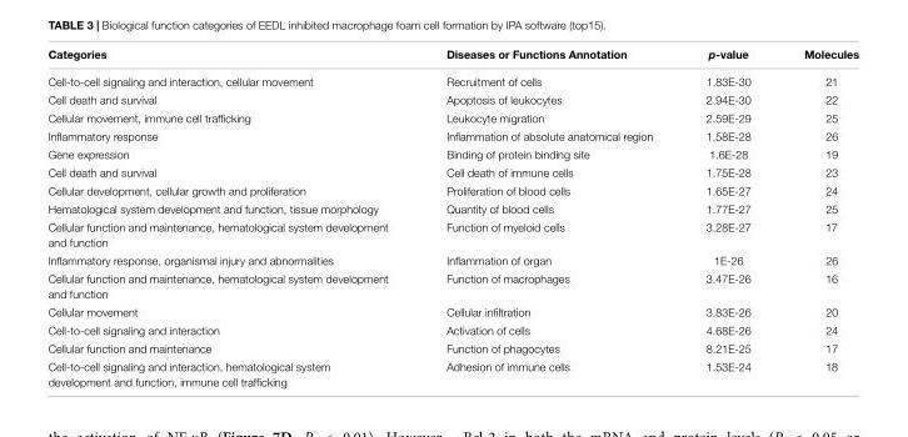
<table><thead><tr><td>Categories</td><td>Diseases or Functions Annotation</td><td>p-value</td><td>Molecules</td></tr></thead><tbody><tr><td>Cell-to-cell signaling and interaction, cellular movement</td><td>Recruitment of cells</td><td>1.83E-30</td><td>21</td></tr><tr><td>Cell death and survival</td><td>Apoptosis of leukocytes</td><td>2.94E-30</td><td>22</td></tr><tr><td>Cellular movement, immune cell trafficking</td><td>Leukocyte migration</td><td>2.59E-29</td><td>25</td></tr><tr><td>Inflammatory response</td><td>Inflammation of absolute anatomical region</td><td>1.58E-28</td><td>26</td></tr><tr><td>Gene expression</td><td>Binding of protein binding site</td><td>1.6E-28</td><td>19</td></tr><tr><td>Cell death and survival</td><td>Cell death of immune cells</td><td>1.75E-28</td><td>23</td></tr><tr><td>Cellular development, cellular growth and proliferation</td><td>Proliferation of blood cells</td><td>1.65E-27</td><td>24</td></tr><tr><td>Hematological system development and function, tissue morphology</td><td>Quantity of blood cells</td><td>1.77E-27</td><td>25</td></tr><tr><td>Cellular function and maintenance, hematological system development and function</td><td>Function of myeloid cells</td><td>3.28E-27</td><td>17</td></tr><tr><td>Inflammatory response, organismal injury and abnormalities</td><td>Inflammation of organ</td><td>1E-26</td><td>26</td></tr><tr><td>Cellular function and maintenance, hematological system development and function</td><td>Function of macrophages</td><td>3.47E-26</td><td>16</td></tr><tr><td>Cellular movement</td><td>Cellular infiltration</td><td>3.83E-26</td><td>20</td></tr><tr><td>Cell-to-cell signaling and interaction</td><td>Activation of cells</td><td>4.68E-26</td><td>24</td></tr><tr><td>Cellular function and maintenance</td><td>Function of phagocytes</td><td>8.21E-25</td><td>17</td></tr><tr><td>Cell-to-cell signaling and interaction, hematological system development and function, immune cell trafficking</td><td>Adhesion of immune cells</td><td>1.53E-24</td><td>18</td></tr></tbody></table>